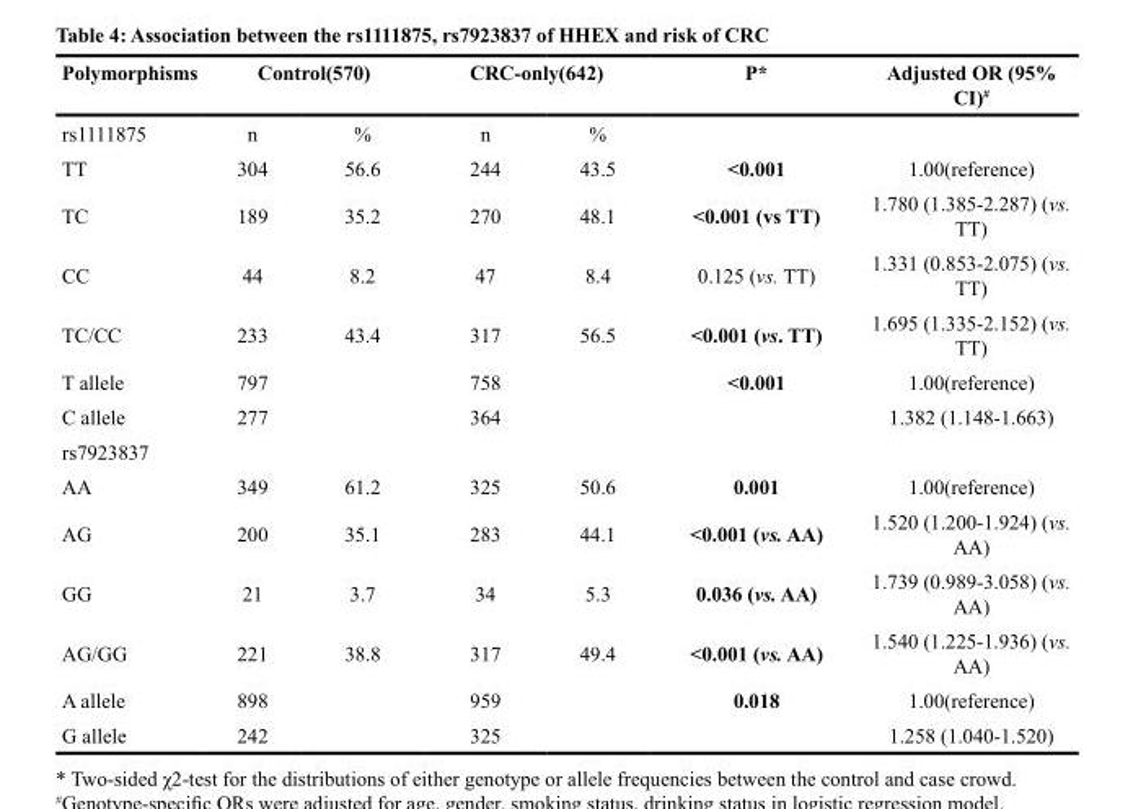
<table><thead><tr><td rowspan="2">Polymorphisms rs1111875</td><td colspan="2">Control(570)</td><td colspan="2">CRC-only(642)</td><td rowspan="2">P*</td><td rowspan="2">Adjusted OR (95% CI)<sup>#</sup></td></tr><tr><td>n</td><td>%</td><td>n</td><td>%</td></tr></thead><tbody><tr><td>TT</td><td>304</td><td>56.6</td><td>244</td><td>43.5</td><td>&lt;0.001</td><td>1.00(reference)</td></tr><tr><td>TC</td><td>189</td><td>35.2</td><td>270</td><td>48.1</td><td>&lt;0.001 (vs TT)</td><td>1.780 (1.385-2.287) (vs. TT)</td></tr><tr><td>CC</td><td>44</td><td>8.2</td><td>47</td><td>8.4</td><td>0.125 (vs. TT)</td><td>1.331 (0.853-2.075) (vs. TT)</td></tr><tr><td>TC/CC</td><td>233</td><td>43.4</td><td>317</td><td>56.5</td><td>&lt;0.001 (vs. TT)</td><td>1.695 (1.335-2.152) (vs. TT)</td></tr><tr><td>T allele</td><td>797</td><td></td><td>758</td><td></td><td>&lt;0.001</td><td>1.00(reference)</td></tr><tr><td>C allele</td><td>277</td><td></td><td>364</td><td></td><td></td><td>1.382 (1.148-1.663)</td></tr><tr><td colspan="7">rs7923837</td></tr><tr><td>AA</td><td>349</td><td>61.2</td><td>325</td><td>50.6</td><td>0.001</td><td>1.00(reference)</td></tr><tr><td>AG</td><td>200</td><td>35.1</td><td>283</td><td>44.1</td><td>&lt;0.001 (vs. AA)</td><td>1.520 (1.200-1.924) (vs. AA)</td></tr><tr><td>GG</td><td>21</td><td>3.7</td><td>34</td><td>5.3</td><td>0.036 (vs. AA)</td><td>1.739 (0.989-3.058) (vs. AA)</td></tr><tr><td>AG/GG</td><td>221</td><td>38.8</td><td>317</td><td>49.4</td><td>&lt;0.001 (vs. AA)</td><td>1.540 (1.225-1.936) (vs. AA)</td></tr><tr><td>A allele</td><td>898</td><td></td><td>959</td><td></td><td>0.018</td><td>1.00(reference)</td></tr><tr><td>G allele</td><td>242</td><td></td><td>325</td><td></td><td></td><td>1.258 (1.040-1.520)</td></tr></tbody></table>